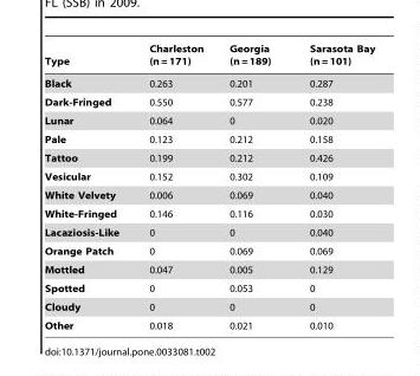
<table><thead><tr><td>Type</td><td>Charleston (n = 171)</td><td>Georgia (n = 189)</td><td>Sarasota Bay (n = 101)</td></tr></thead><tbody><tr><td>Black</td><td>0.263</td><td>0.201</td><td>0.287</td></tr><tr><td>Dark-Fringed</td><td>0.550</td><td>0.577</td><td>0.238</td></tr><tr><td>Lunar</td><td>0.064</td><td>0</td><td>0.020</td></tr><tr><td>Pale</td><td>0.123</td><td>0.212</td><td>0.158</td></tr><tr><td>Tattoo</td><td>0.199</td><td>0.212</td><td>0.426</td></tr><tr><td>Vesicular</td><td>0.152</td><td>0.302</td><td>0.109</td></tr><tr><td>White Velvety</td><td>0.006</td><td>0.069</td><td>0.040</td></tr><tr><td>White-Fringed</td><td>0.146</td><td>0.116</td><td>0.030</td></tr><tr><td>Lacaziosis-Like</td><td>0</td><td>0</td><td>0.040</td></tr><tr><td>Orange Patch</td><td>0</td><td>0.069</td><td>0.069</td></tr><tr><td>Mottled</td><td>0.047</td><td>0.005</td><td>0.129</td></tr><tr><td>Spotted</td><td>0</td><td>0.053</td><td>0</td></tr><tr><td>Cloudy</td><td>0</td><td>0</td><td>0</td></tr><tr><td>Other</td><td>0.018</td><td>0.021</td><td>0.010</td></tr></tbody></table>